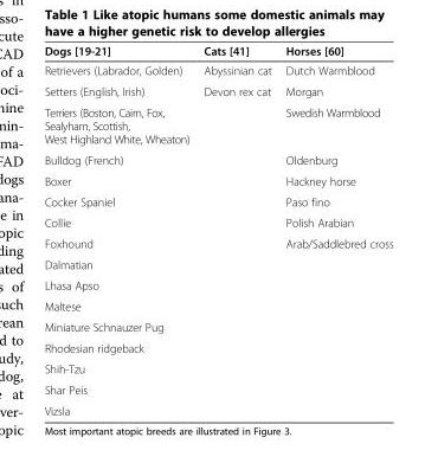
<table><thead><tr><td>Dogs [19-21]</td><td>Cats [41]</td><td>Horses [60]</td></tr></thead><tbody><tr><td>Retrievers (Labrador, Golden)</td><td>Abyssinian cat</td><td>Dutch Warmblood</td></tr><tr><td>Setters (English, Irish)</td><td>Devon rex cat</td><td>Morgan</td></tr><tr><td>Terriers (Boston, Cairn, Fox, Sealyham, Scottish, West Highland White, Wheaton)</td><td></td><td>Swedish Warmblood</td></tr><tr><td>Bulldog (French)</td><td></td><td>Oldenburg</td></tr><tr><td>Boxer</td><td></td><td>Hackney horse</td></tr><tr><td>Cocker Spaniel</td><td></td><td>Paso fino</td></tr><tr><td>Collie</td><td></td><td>Polish Arabian</td></tr><tr><td>Foxhound</td><td></td><td>Arab/Saddlebred cross</td></tr><tr><td colspan="3">Dalmatian</td></tr><tr><td colspan="3">Lhasa Apso</td></tr><tr><td colspan="3">Maltese</td></tr><tr><td colspan="3">Miniature Schnauzer Pug</td></tr><tr><td colspan="3">Rhodesian ridgeback</td></tr><tr><td colspan="3">Shih-Tzu</td></tr><tr><td colspan="3">Shar Peis</td></tr><tr><td>Vizsla</td><td></td><td></td></tr></tbody></table>